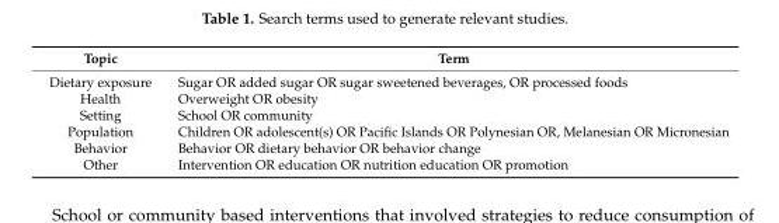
<table><thead><tr><td>Topic</td><td>Term</td></tr></thead><tbody><tr><td>Dietary exposure</td><td>Sugar OR added sugar OR sugar sweetened beverages, OR processed foods</td></tr><tr><td>Health</td><td>Overweight OR obesity</td></tr><tr><td>Setting</td><td>School OR community</td></tr><tr><td>Population</td><td>Children OR adolescent(s) OR Pacific Islands OR Polynesian OR, Melanesian OR Micronesian</td></tr><tr><td>Behavior</td><td>Behavior OR dietary behavior OR behavior change</td></tr><tr><td>Other</td><td>Intervention OR education OR nutrition education OR promotion</td></tr></tbody></table>